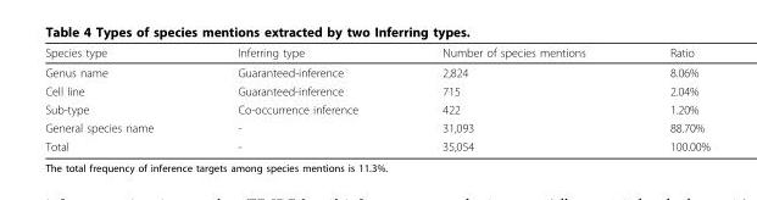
<table><thead><tr><td>Species type</td><td>Inferring type</td><td>Number of species mentions</td><td>Ratio</td></tr></thead><tbody><tr><td>Genus name</td><td>Guaranteed-inference</td><td>2,824</td><td>8.06%</td></tr><tr><td>Cell line</td><td>Guaranteed-inference</td><td>715</td><td>2.04%</td></tr><tr><td>Sub-type</td><td>Co-occurrence inference</td><td>422</td><td>1.20%</td></tr><tr><td>General species name</td><td>-</td><td>31,093</td><td>88.70%</td></tr><tr><td>Total</td><td>-</td><td>35,054</td><td>100.00%</td></tr></tbody></table>